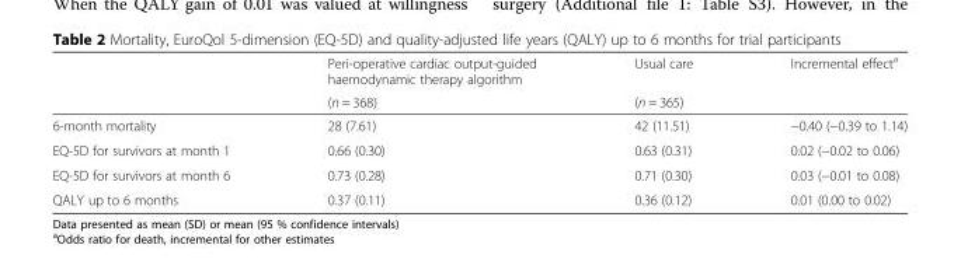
<table><thead><tr><td rowspan="2"></td><td rowspan="2">Peri-operative cardiac output-guided haemodynamic therapy algorithm (n = 368)</td><td rowspan="2">Usual care (n = 365)</td><td rowspan="2">Incremental effect<sup>a</sup></td></tr><tr></tr></thead><tbody><tr><td>6-month mortality</td><td>28 (7.61)</td><td>42 (11.51)</td><td>−0.40 (−0.39 to 1.14)</td></tr><tr><td>EQ-5D for survivors at month 1</td><td>0.66 (0.30)</td><td>0.63 (0.31)</td><td>0.02 (−0.02 to 0.06)</td></tr><tr><td>EQ-5D for survivors at month 6</td><td>0.73 (0.28)</td><td>0.71 (0.30)</td><td>0.03 (−0.01 to 0.08)</td></tr><tr><td>QALY up to 6 months</td><td>0.37 (0.11)</td><td>0.36 (0.12)</td><td>0.01 (0.00 to 0.02)</td></tr></tbody></table>